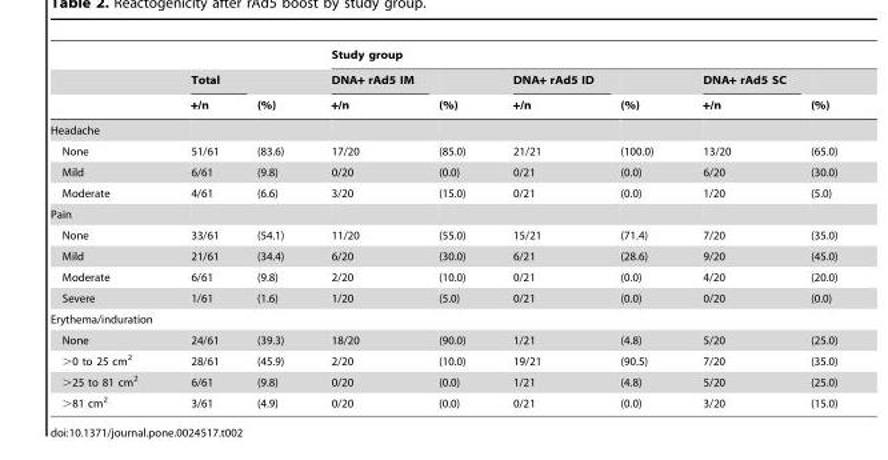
<table><thead><tr><td rowspan="3"></td><td rowspan="3">Total +/n</td><td rowspan="3">(%)</td><td colspan="6">Study group</td></tr><tr><td rowspan="2">DNA+ rAd5 IM +/n</td><td rowspan="2">(%)</td><td rowspan="2">DNA+ rAd5 ID +/n</td><td rowspan="2">(%)</td><td rowspan="2">DNA+ rAd5 SC +/n</td><td rowspan="2">(%)</td></tr><tr></tr></thead><tbody><tr><td colspan="9">Headache</td></tr><tr><td>None</td><td>51/61</td><td>(83.6)</td><td>17/20</td><td>(85.0)</td><td>21/21</td><td>(100.0)</td><td>13/20</td><td>(65.0)</td></tr><tr><td>Mild</td><td>6/61</td><td>(9.8)</td><td>0/20</td><td>(0.0)</td><td>0/21</td><td>(0.0)</td><td>6/20</td><td>(30.0)</td></tr><tr><td>Moderate</td><td>4/61</td><td>(6.6)</td><td>3/20</td><td>(15.0)</td><td>0/21</td><td>(0.0)</td><td>1/20</td><td>(5.0)</td></tr><tr><td colspan="9">Pain</td></tr><tr><td>None</td><td>33/61</td><td>(54.1)</td><td>11/20</td><td>(55.0)</td><td>15/21</td><td>(71.4)</td><td>7/20</td><td>(35.0)</td></tr><tr><td>Mild</td><td>21/61</td><td>(34.4)</td><td>6/20</td><td>(30.0)</td><td>6/21</td><td>(28.6)</td><td>9/20</td><td>(45.0)</td></tr><tr><td>Moderate</td><td>6/61</td><td>(9.8)</td><td>2/20</td><td>(10.0)</td><td>0/21</td><td>(0.0)</td><td>4/20</td><td>(20.0)</td></tr><tr><td>Severe</td><td>1/61</td><td>(1.6)</td><td>1/20</td><td>(5.0)</td><td>0/21</td><td>(0.0)</td><td>0/20</td><td>(0.0)</td></tr><tr><td colspan="9">Erythema/induration</td></tr><tr><td>None</td><td>24/61</td><td>(39.3)</td><td>18/20</td><td>(90.0)</td><td>1/21</td><td>(4.8)</td><td>5/20</td><td>(25.0)</td></tr><tr><td>&gt;0 to 25 cm<sup>2</sup></td><td>28/61</td><td>(45.9)</td><td>2/20</td><td>(10.0)</td><td>19/21</td><td>(90.5)</td><td>7/20</td><td>(35.0)</td></tr><tr><td>&gt;25 to 81 cm<sup>2</sup></td><td>6/61</td><td>(9.8)</td><td>0/20</td><td>(0.0)</td><td>1/21</td><td>(4.8)</td><td>5/20</td><td>(25.0)</td></tr><tr><td>&gt;81 cm<sup>2</sup></td><td>3/61</td><td>(4.9)</td><td>0/20</td><td>(0.0)</td><td>0/21</td><td>(0.0)</td><td>3/20</td><td>(15.0)</td></tr></tbody></table>